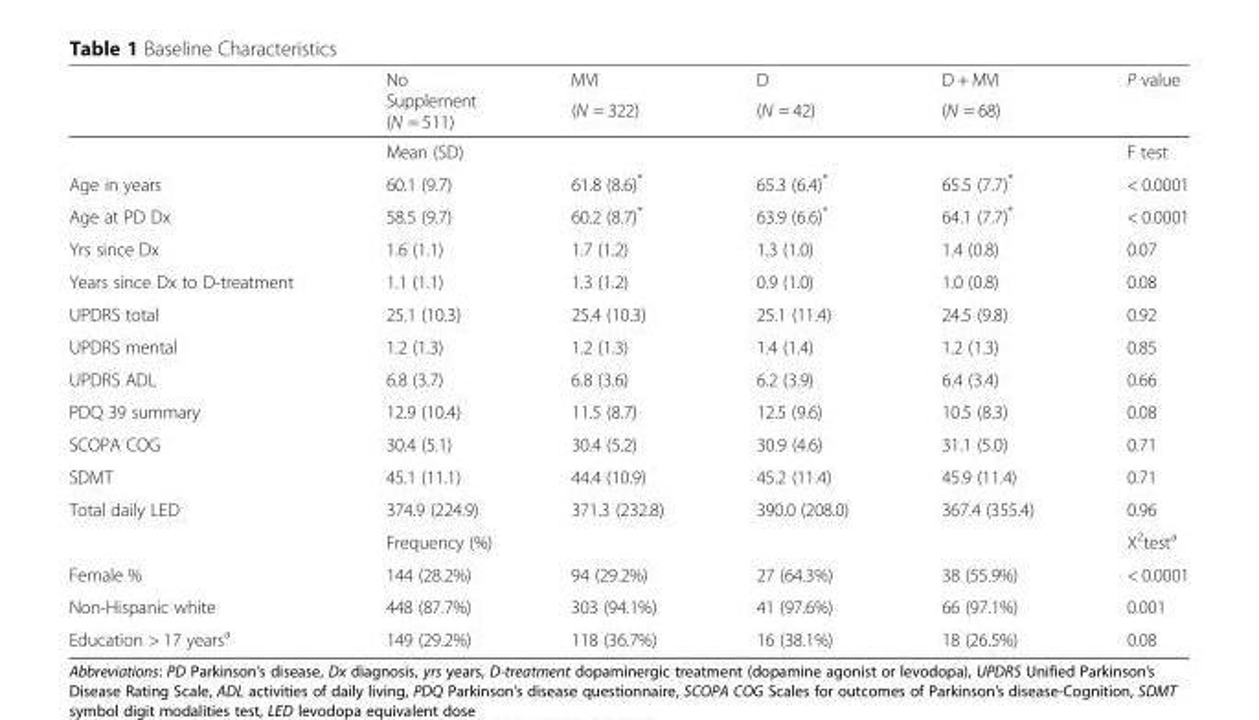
<table><thead><tr><td rowspan="2"></td><td rowspan="2">No Supplement (N = 511)</td><td rowspan="2">MVI (N = 322)</td><td rowspan="2">D (N = 42)</td><td rowspan="2">D + MVI (N = 68)</td><td rowspan="2">P value</td></tr><tr></tr></thead><tbody><tr><td></td><td colspan="4">Mean (SD)</td><td>F test</td></tr><tr><td>Age in years</td><td>60.1 (9.7)</td><td>61.8 (8.6)*</td><td>65.3 (6.4)*</td><td>65.5 (7.7)*</td><td>&lt; 0.0001</td></tr><tr><td>Age at PD Dx</td><td>58.5 (9.7)</td><td>60.2 (8.7)*</td><td>63.9 (6.6)*</td><td>64.1 (7.7)*</td><td>&lt; 0.0001</td></tr><tr><td>Yrs since Dx</td><td>1.6 (1.1)</td><td>1.7 (1.2)</td><td>1.3 (1.0)</td><td>1.4 (0.8)</td><td>0.07</td></tr><tr><td>Years since Dx to D-treatment</td><td>1.1 (1.1)</td><td>1.3 (1.2)</td><td>0.9 (1.0)</td><td>1.0 (0.8)</td><td>0.08</td></tr><tr><td>UPDRS total</td><td>25.1 (10.3)</td><td>25.4 (10.3)</td><td>25.1 (11.4)</td><td>24.5 (9.8)</td><td>0.92</td></tr><tr><td>UPDRS mental</td><td>1.2 (1.3)</td><td>1.2 (1.3)</td><td>1.4 (1.4)</td><td>1.2 (1.3)</td><td>0.85</td></tr><tr><td>UPDRS ADL</td><td>6.8 (3.7)</td><td>6.8 (3.6)</td><td>6.2 (3.9)</td><td>6.4 (3.4)</td><td>0.66</td></tr><tr><td>PDQ 39 summary</td><td>12.9 (10.4)</td><td>11.5 (8.7)</td><td>12.5 (9.6)</td><td>10.5 (8.3)</td><td>0.08</td></tr><tr><td>SCOPA COG</td><td>30.4 (5.1)</td><td>30.4 (5.2)</td><td>30.9 (4.6)</td><td>31.1 (5.0)</td><td>0.71</td></tr><tr><td>SDMT</td><td>45.1 (11.1)</td><td>44.4 (10.9)</td><td>45.2 (11.4)</td><td>45.9 (11.4)</td><td>0.71</td></tr><tr><td rowspan="2">Total daily LED</td><td>374.9 (224.9)</td><td>371.3 (232.8)</td><td>390.0 (208.0)</td><td>367.4 (355.4)</td><td>0.96</td></tr><tr><td colspan="4">Frequency (%)</td><td>X<sup>2</sup>test<sup>a</sup></td></tr><tr><td>Female %</td><td>144 (28.2%)</td><td>94 (29.2%)</td><td>27 (64.3%)</td><td>38 (55.9%)</td><td>&lt; 0.0001</td></tr><tr><td>Non-Hispanic white</td><td>448 (87.7%)</td><td>303 (94.1%)</td><td>41 (97.6%)</td><td>66 (97.1%)</td><td>0.001</td></tr><tr><td>Education &gt; 17 years<sup>a</sup></td><td>149 (29.2%)</td><td>118 (36.7%)</td><td>16 (38.1%)</td><td>18 (26.5%)</td><td>0.08</td></tr></tbody></table>